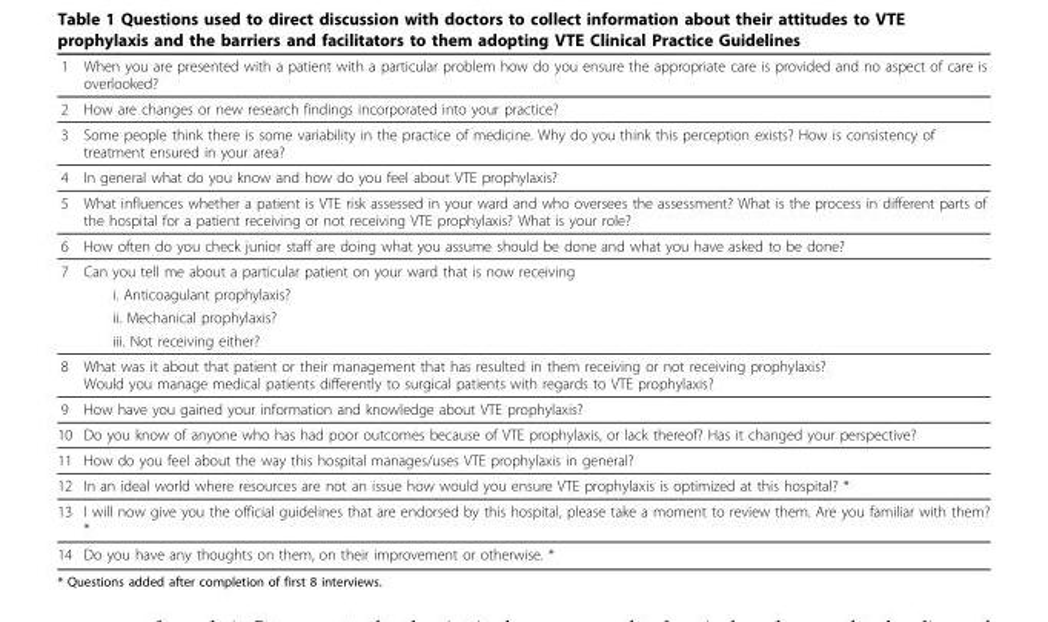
<table><thead><tr><td>1</td><td>When you are presented with a patient with a particular problem how do you ensure the appropriate care is provided and no aspect of care is overlooked?</td></tr></thead><tbody><tr><td>2</td><td>How are changes or new research findings incorporated into your practice?</td></tr><tr><td>3</td><td>Some people think there is some variability in the practice of medicine. Why do you think this perception exists? How is consistency of treatment ensured in your area?</td></tr><tr><td>4</td><td>In general what do you know and how do you feel about VTE prophylaxis?</td></tr><tr><td>5</td><td>What influences whether a patient is VTE risk assessed in your ward and who oversees the assessment? What is the process in different parts of the hospital for a patient receiving or not receiving VTE prophylaxis? What is your role?</td></tr><tr><td>6</td><td>How often do you check junior staff are doing what you assume should be done and what you have asked to be done?</td></tr><tr><td rowspan="4">7</td><td>Can you tell me about a particular patient on your ward that is now receiving</td></tr><tr><td>i. Anticoagulant prophylaxis?</td></tr><tr><td>ii. Mechanical prophylaxis?</td></tr><tr><td>iii. Not receiving either?</td></tr><tr><td>8</td><td>What was it about that patient or their management that has resulted in them receiving or not receiving prophylaxis? Would you manage medical patients differently to surgical patients with regards to VTE prophylaxis?</td></tr><tr><td>9</td><td>How have you gained your information and knowledge about VTE prophylaxis?</td></tr><tr><td>10</td><td>Do you know of anyone who has had poor outcomes because of VTE prophylaxis, or lack thereof? Has it changed your perspective?</td></tr><tr><td>11</td><td>How do you feel about the way this hospital manages/uses VTE prophylaxis in general?</td></tr><tr><td>12</td><td>In an ideal world where resources are not an issue how would you ensure VTE prophylaxis is optimized at this hospital? *</td></tr><tr><td>13</td><td>I will now give you the official guidelines that are endorsed by this hospital, please take a moment to review them. Are you familiar with them? *</td></tr><tr><td>14</td><td>Do you have any thoughts on them, on their improvement or otherwise. *</td></tr></tbody></table>